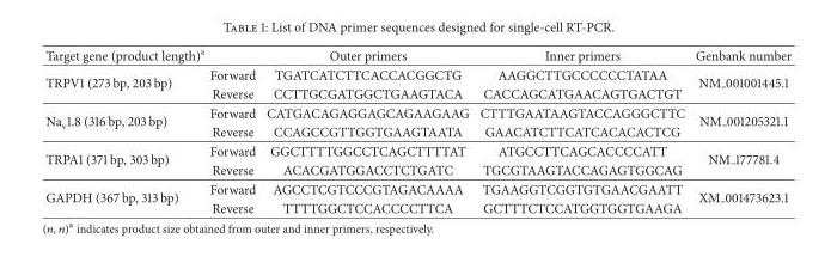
<table><thead><tr><td>Target gene (product length)<sup>a</sup></td><td></td><td>Outer primers</td><td>Inner primers</td><td>Genbank number</td></tr></thead><tbody><tr><td rowspan="2">TRPV1 (273 bp, 203 bp)</td><td>Forward</td><td>TGATCATCTTCACCACGGCTG</td><td>AAGGCTTGCCCCCCTATAA</td><td rowspan="2">NM 001001445.1</td></tr><tr><td>Reverse</td><td>CCTTGCGATGGCTGAAGTACA</td><td>CACCAGCATGAACAGTGACTGT</td></tr><tr><td rowspan="2">Na<sub>v</sub>1.8 (316 bp, 203 bp)</td><td>Forward</td><td>CATGACAGAGGAGCAGAAGAAG</td><td>CTTTGAATAAGTACCAGGGCTTC</td><td rowspan="2">NM 001205321.1</td></tr><tr><td>Reverse</td><td>CCAGCCGTTGGTGAAGTAATA</td><td>GAACATCTTCATCACACACTCG</td></tr><tr><td rowspan="2">TRPA1 (371 bp, 303 bp)</td><td>Forward</td><td>GGCTTTTGGCCTCAGCTTTTAT</td><td>ATGCCTTCAGCACCCCATT</td><td rowspan="2">NM 177781.4</td></tr><tr><td>Reverse</td><td>ACACGATGGACCTCTGATC</td><td>TGCGTAAGTACCAGAGTGGCAG</td></tr><tr><td rowspan="2">GAPDH (367 bp, 313 bp)</td><td>Forward</td><td>AGCCTCGTCCCGTAGACAAAA</td><td>TGAAGGTCGGTGTGAACGAATT</td><td rowspan="2">XM 001473623.1</td></tr><tr><td>Reverse</td><td>TTTTGGCTCCACCCCTTCA</td><td>GCTTTCTCCATGGTGGTGAAGA</td></tr></tbody></table>